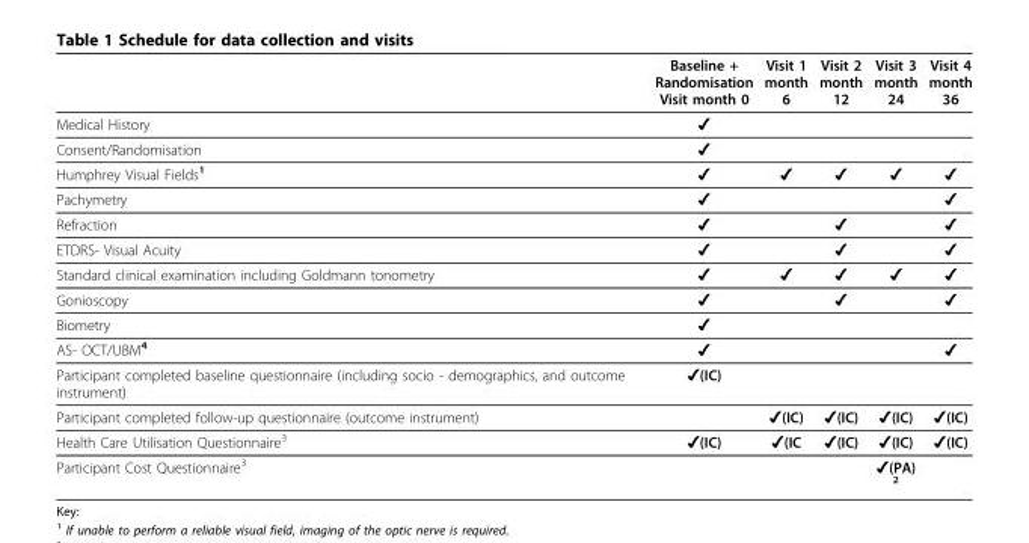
<table><thead><tr><td></td><td>Baseline + Randomisation Visit month 0</td><td>Visit 1 month 6</td><td>Visit 2 month 12</td><td>Visit 3 month 24</td><td>Visit 4 month 36</td></tr></thead><tbody><tr><td>Medical History</td><td>✔</td><td></td><td></td><td></td><td></td></tr><tr><td>Consent/Randomisation</td><td>✔</td><td></td><td></td><td></td><td></td></tr><tr><td>Humphrey Visual Fields<sup>1</sup></td><td>✔</td><td>✔</td><td>✔</td><td>✔</td><td>✔</td></tr><tr><td>Pachymetry</td><td>✔</td><td></td><td></td><td></td><td>✔</td></tr><tr><td>Refraction</td><td>✔</td><td></td><td>✔</td><td></td><td>✔</td></tr><tr><td>ETDRS- Visual Acuity</td><td>✔</td><td></td><td>✔</td><td></td><td>✔</td></tr><tr><td>Standard clinical examination including Goldmann tonometry</td><td>✔</td><td>✔</td><td>✔</td><td>✔</td><td>✔</td></tr><tr><td>Gonioscopy</td><td>✔</td><td></td><td>✔</td><td></td><td>✔</td></tr><tr><td>Biometry</td><td>✔</td><td></td><td></td><td></td><td></td></tr><tr><td>AS- OCT/UBM<sup>4</sup></td><td>✔</td><td></td><td></td><td></td><td>✔</td></tr><tr><td>Participant completed baseline questionnaire (including socio - demographics, and outcome instrument)</td><td>✔(IC)</td><td></td><td></td><td></td><td></td></tr><tr><td>Participant completed follow-up questionnaire (outcome instrument)</td><td></td><td>✔(IC)</td><td>✔(IC)</td><td>✔(IC)</td><td>✔(IC)</td></tr><tr><td>Health Care Utilisation Questionnaire<sup>3</sup></td><td>✔(IC)</td><td>✔(IC</td><td>✔(IC)</td><td>✔(IC)</td><td>✔(IC)</td></tr><tr><td>Participant Cost Questionnaire<sup>3</sup></td><td></td><td></td><td></td><td>✔(PA) <sup>2</sup></td><td></td></tr></tbody></table>